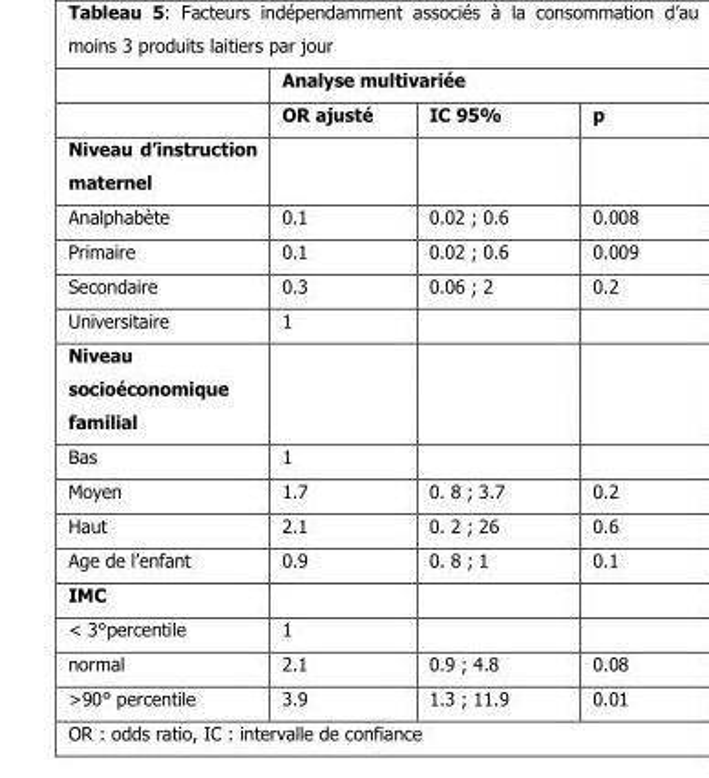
<table><thead><tr><td rowspan="2"></td><td colspan="3">Analyse multivariée</td></tr><tr><td>OR ajusté</td><td>IC 95%</td><td>p</td></tr></thead><tbody><tr><td colspan="4">Niveau d’instruction maternel</td></tr><tr><td>Analphabète</td><td>0.1</td><td>0.02 ; 0.6</td><td>0.008</td></tr><tr><td>Primaire</td><td>0.1</td><td>0.02 ; 0.6</td><td>0.009</td></tr><tr><td>Secondaire</td><td>0.3</td><td>0.06 ; 2</td><td>0.2</td></tr><tr><td>Universitaire</td><td>1</td><td></td><td></td></tr><tr><td colspan="4">Niveau socioéconomique familial</td></tr><tr><td>Bas</td><td>1</td><td></td><td></td></tr><tr><td>Moyen</td><td>1.7</td><td>0. 8 ; 3.7</td><td>0.2</td></tr><tr><td>Haut</td><td>2.1</td><td>0. 2 ; 26</td><td>0.6</td></tr><tr><td>Age de l’enfant</td><td>0.9</td><td>0. 8 ; 1</td><td>0.1</td></tr><tr><td colspan="4">IMC</td></tr><tr><td>&lt; 3°percentile</td><td>1</td><td></td><td></td></tr><tr><td>normal</td><td>2.1</td><td>0.9 ; 4.8</td><td>0.08</td></tr><tr><td>&gt;90° percentile</td><td>3.9</td><td>1.3 ; 11.9</td><td>0.01</td></tr></tbody></table>